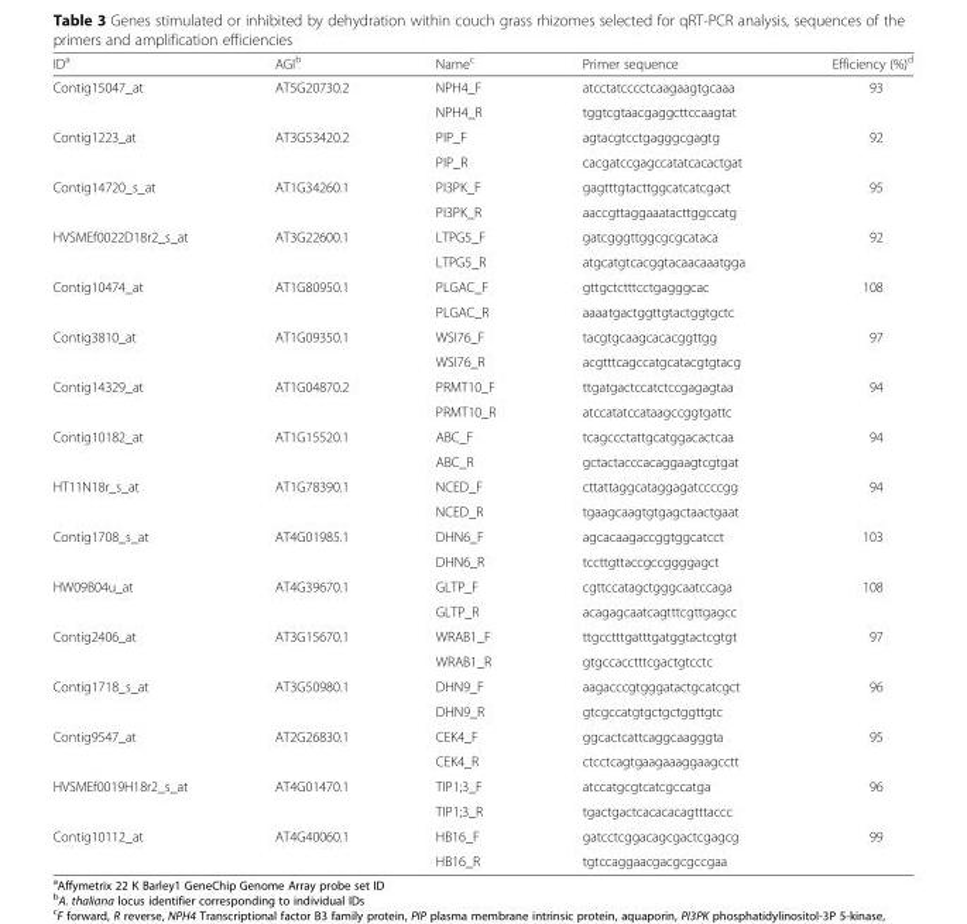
<table><thead><tr><td>ID<sup>a</sup></td><td>AGI<sup>b</sup></td><td>Name<sup>c</sup></td><td>Primer sequence</td><td>Efficiency (%)<sup>d</sup></td></tr></thead><tbody><tr><td rowspan="2">Contig15047_at</td><td rowspan="2">AT5G20730.2</td><td>NPH4_F</td><td>atcctatcccctcaagaagtgcaaa</td><td rowspan="2">93</td></tr><tr><td>NPH4_R</td><td>tggtcgtaacgaggcttccaagtat</td></tr><tr><td rowspan="2">Contig1223_at</td><td rowspan="2">AT3G53420.2</td><td>PIP_F</td><td>agtacgtcctgagggcgagtg</td><td rowspan="2">92</td></tr><tr><td>PIP_R</td><td>cacgatccgagccatatcacactgat</td></tr><tr><td rowspan="2">Contig14720_s_at</td><td rowspan="2">AT1G34260.1</td><td>PI3PK_F</td><td>gagtttgtacttggcatcatcgact</td><td rowspan="2">95</td></tr><tr><td>PI3PK_R</td><td>aaccgttaggaaatacttggccatg</td></tr><tr><td rowspan="2">HVSMEf0022D18r2_s_at</td><td rowspan="2">AT3G22600.1</td><td>LTPG5_F</td><td>gatcgggttggcgcgcataca</td><td rowspan="2">92</td></tr><tr><td>LTPG5_R</td><td>atgcatgtcacggtacaacaaatgga</td></tr><tr><td rowspan="2">Contig10474_at</td><td rowspan="2">AT1G80950.1</td><td>PLGAC_F</td><td>gttgctctttcctgagggcac</td><td rowspan="2">108</td></tr><tr><td>PLGAC_R</td><td>aaaatgactggttgtactggtgctc</td></tr><tr><td rowspan="2">Contig3810_at</td><td rowspan="2">AT1G09350.1</td><td>WSI76_F</td><td>tacgtgcaagcacacggttgg</td><td rowspan="2">97</td></tr><tr><td>WSI76_R</td><td>acgtttcagccatgcatacgtgtacg</td></tr><tr><td rowspan="2">Contig14329_at</td><td rowspan="2">AT1G04870.2</td><td>PRMT10_F</td><td>ttgatgactccatctccgagagtaa</td><td rowspan="2">94</td></tr><tr><td>PRMT10_R</td><td>atccatatccataagccggtgattc</td></tr><tr><td rowspan="2">Contig10182_at</td><td rowspan="2">AT1G15520.1</td><td>ABC_F</td><td>tcagccctattgcatggacactcaa</td><td rowspan="2">94</td></tr><tr><td>ABC_R</td><td>gctactacccacaggaagtcgtgat</td></tr><tr><td rowspan="2">HT11N18r_s_at</td><td rowspan="2">AT1G78390.1</td><td>NCED_F</td><td>cttattaggcataggagatccccgg</td><td rowspan="2">94</td></tr><tr><td>NCED_R</td><td>tgaagcaagtgtgagctaactgaat</td></tr><tr><td rowspan="2">Contig1708_s_at</td><td rowspan="2">AT4G01985.1</td><td>DHN6_F</td><td>agcacaagaccggtggcatcct</td><td rowspan="2">103</td></tr><tr><td>DHN6_R</td><td>tccttgttaccgccggggagct</td></tr><tr><td rowspan="2">HW09B04u_at</td><td rowspan="2">AT4G39670.1</td><td>GLTP_F</td><td>cgttccatagctgggcaatccaga</td><td rowspan="2">108</td></tr><tr><td>GLTP_R</td><td>acagagcaatcagtttcgttgagcc</td></tr><tr><td rowspan="2">Contig2406_at</td><td rowspan="2">AT3G15670.1</td><td>WRAB1_F</td><td>ttgcctttgatttgatggtactcgtgt</td><td rowspan="2">97</td></tr><tr><td>WRAB1_R</td><td>gtgccacctttcgactgtcctc</td></tr><tr><td rowspan="2">Contig1718_s_at</td><td rowspan="2">AT3G50980.1</td><td>DHN9_F</td><td>aagacccgtgggatactgcatcgct</td><td rowspan="2">96</td></tr><tr><td>DHN9_R</td><td>gtcgccatgtgctgctggttgtc</td></tr><tr><td rowspan="2">Contig9547_at</td><td rowspan="2">AT2G26830.1</td><td>CEK4_F</td><td>ggcactcattcaggcaagggta</td><td rowspan="2">95</td></tr><tr><td>CEK4_R</td><td>ctcctcagtgaagaaaggaagcctt</td></tr><tr><td rowspan="2">HVSMEf0019H18r2_s_at</td><td rowspan="2">AT4G01470.1</td><td>TIP1;3_F</td><td>atccatgcgtcatcgccatga</td><td rowspan="2">96</td></tr><tr><td>TIP1;3_R</td><td>tgactgactcacacacagtttaccc</td></tr><tr><td rowspan="2">Contig10112_at</td><td rowspan="2">AT4G40060.1</td><td>HB16_F</td><td>gatcctcggacagcgactcgagcg</td><td rowspan="2">99</td></tr><tr><td>HB16_R</td><td>tgtccaggaacgacgcgccgaa</td></tr></tbody></table>